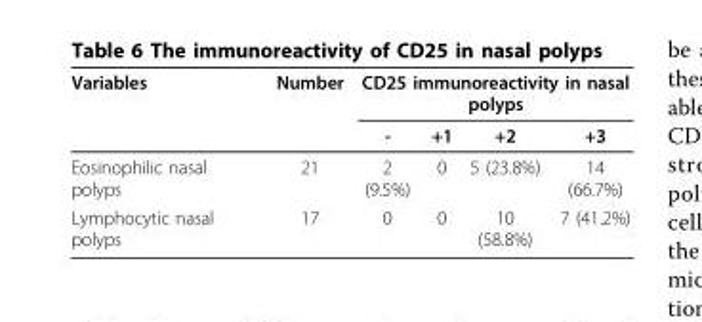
<table><thead><tr><td rowspan="2">Variables</td><td rowspan="2">Number</td><td colspan="4">CD25 immunoreactivity in nasal polyps</td></tr><tr><td>-</td><td>+1</td><td>+2</td><td>+3</td></tr></thead><tbody><tr><td>Eosinophilic nasal polyps</td><td>21</td><td>2 (9.5%)</td><td>0</td><td>5 (23.8%)</td><td>14 (66.7%)</td></tr><tr><td>Lymphocytic nasal polyps</td><td>17</td><td>0</td><td>0</td><td>10 (58.8%)</td><td>7 (41.2%)</td></tr></tbody></table>